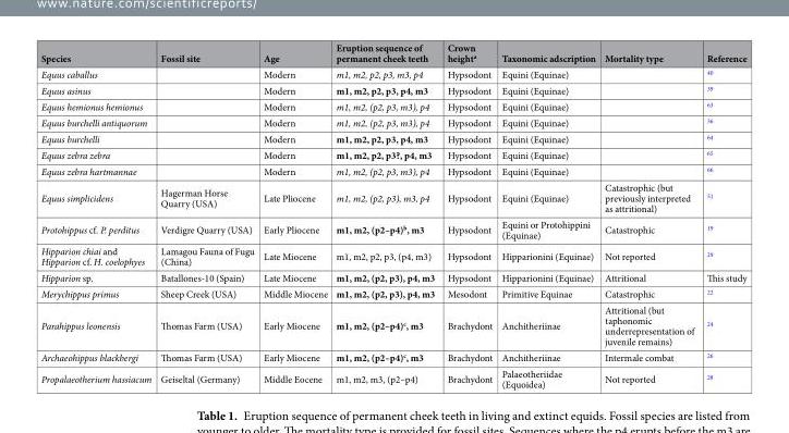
<table><thead><tr><td>Species</td><td>Fossil site</td><td>Age</td><td>Eruption sequence of permanent cheek teeth</td><td>Crown height<sup>a</sup></td><td>Taxonomic adscription</td><td>Mortality type</td><td>Reference</td></tr></thead><tbody><tr><td>Equus caballus</td><td></td><td>Modern</td><td>m1, m2, p2, p3, m3, p4</td><td>Hypsodont</td><td>Equini (Equinae)</td><td></td><td><sup>40</sup></td></tr><tr><td>Equus asinus</td><td></td><td>Modern</td><td>m1, m2, p2, p3, p4, m3</td><td>Hypsodont</td><td>Equini (Equinae)</td><td></td><td><sup>39</sup></td></tr><tr><td>Equus hemionus hemionus</td><td></td><td>Modern</td><td>m1, m2, (p2, p3, m3), p4</td><td>Hypsodont</td><td>Equini (Equinae)</td><td></td><td><sup>63</sup></td></tr><tr><td>Equus burchelli antiquorum</td><td></td><td>Modern</td><td>m1, m2, (p2, p3, m3), p4</td><td>Hypsodont</td><td>Equini (Equinae)</td><td></td><td><sup>36</sup></td></tr><tr><td>Equus burchelli</td><td></td><td>Modern</td><td>m1, m2, p2, p3, p4, m3</td><td>Hypsodont</td><td>Equini (Equinae)</td><td></td><td><sup>64</sup></td></tr><tr><td>Equus zebra zebra</td><td></td><td>Modern</td><td>m1, m2, p2, p3?, p4, m3</td><td>Hypsodont</td><td>Equini (Equinae)</td><td></td><td><sup>65</sup></td></tr><tr><td>Equus zebra hartmannae</td><td></td><td>Modern</td><td>m1, m2, (p2, p3, m3), p4</td><td>Hypsodont</td><td>Equini (Equinae)</td><td></td><td><sup>66</sup></td></tr><tr><td>Equus simplicidens</td><td>Hagerman Horse Quarry (USA)</td><td>Late Pliocene</td><td>m1, m2, (p2, p3), m3, p4</td><td>Hypsodont</td><td>Equini (Equinae)</td><td>Catastrophic (but previously interpreted as attritional)</td><td><sup>51</sup></td></tr><tr><td>Protohippus cf. P. perditus</td><td>Verdigre Quarry (USA)</td><td>Early Pliocene</td><td>m1, m2, (p2–p4)<sup>b</sup>, m3</td><td>Hypsodont</td><td>Equini or Protohippini (Equinae)</td><td>Catastrophic</td><td><sup>19</sup></td></tr><tr><td>Hipparion chiai and Hipparion cf. H. coelophyes</td><td>Lamagou Fauna of Fugu (China)</td><td>Late Miocene</td><td>m1, m2, p2, p3, (p4, m3)</td><td>Hypsodont</td><td>Hipparionini (Equinae)</td><td>Not reported</td><td><sup>29</sup></td></tr><tr><td>Hipparion sp.</td><td>Batallones-10 (Spain)</td><td>Late Miocene</td><td>m1, m2, (p2, p3), p4, m3</td><td>Hypsodont</td><td>Hipparionini (Equinae)</td><td>Attritional</td><td>This study</td></tr><tr><td>Merychippus primus</td><td>Sheep Creek (USA)</td><td>Middle Miocene</td><td>m1, m2, (p2, p3), p4, m3</td><td>Mesodont</td><td>Primitive Equinae</td><td>Catastrophic</td><td><sup>22</sup></td></tr><tr><td>Parahippus leonensis</td><td>Thomas Farm (USA)</td><td>Early Miocene</td><td>m1, m2, (p2–p4)<sup>c</sup>, m3</td><td>Brachydont</td><td>Anchitheriinae</td><td>Attritional (but taphonomic underrepresentation of juvenile remains)</td><td><sup>24</sup></td></tr><tr><td>Archaeohippus blackbergi</td><td>Thomas Farm (USA)</td><td>Early Miocene</td><td>m1, m2, (p2–p4)<sup>c</sup>, m3</td><td>Brachydont</td><td>Anchitheriinae</td><td>Intermale combat</td><td><sup>26</sup></td></tr><tr><td>Propalaeotherium hassiacum</td><td>Geiseltal (Germany)</td><td>Middle Eocene</td><td>m1, m2, m3, (p2–p4)</td><td>Brachydont</td><td>Palaeotheriidae (Equoidea)</td><td>Not reported</td><td><sup>28</sup></td></tr></tbody></table>